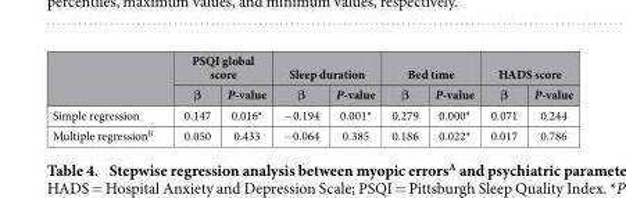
<table><thead><tr><td rowspan="2"></td><td colspan="2">PSQI global score</td><td colspan="2">Sleep duration</td><td colspan="2">Bed time</td><td colspan="2">HADS score</td></tr><tr><td>β</td><td>P-value</td><td>β</td><td>P-value</td><td>β</td><td>P-value</td><td>β</td><td>P-value</td></tr></thead><tbody><tr><td>Simple regression</td><td>0.147</td><td>0.016*</td><td>− 0.194</td><td>0.001*</td><td>0.279</td><td>0.000*</td><td>0.071</td><td>0.244</td></tr><tr><td>Multiple regression<sup>B</sup></td><td>0.050</td><td>0.433</td><td>− 0.064</td><td>0.385</td><td>0.186</td><td>0.022*</td><td>0.017</td><td>0.786</td></tr></tbody></table>